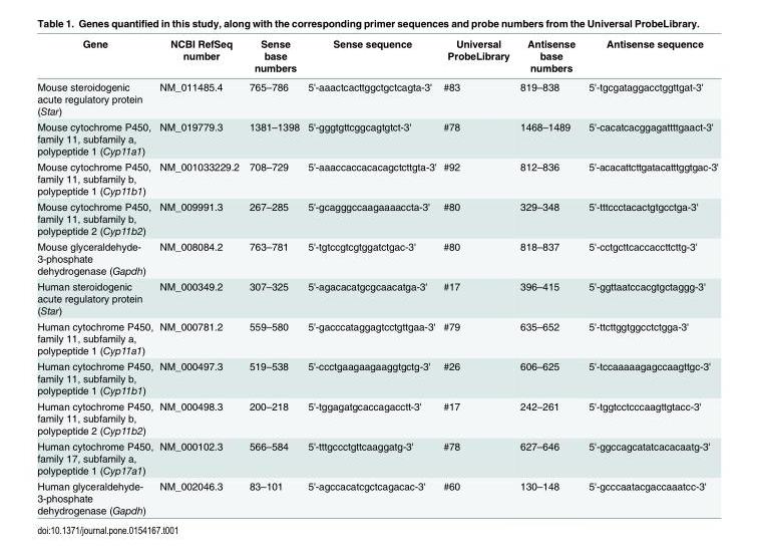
<table><thead><tr><td>Gene</td><td>NCBI RefSeq number</td><td>Sense base numbers</td><td>Sense sequence</td><td>Universal ProbeLibrary</td><td>Antisense base numbers</td><td>Antisense sequence</td></tr></thead><tbody><tr><td>Mouse steroidogenic acute regulatory protein (Star)</td><td>NM_011485.4</td><td>765–786</td><td>5&#x27;-aaactcacttggctgctcagta-3&#x27;</td><td>#83</td><td>819–838</td><td>5&#x27;-tgcgataggacctggttgat-3&#x27;</td></tr><tr><td>Mouse cytochrome P450, family 11, subfamily a, polypeptide 1 (Cyp11a1)</td><td>NM_019779.3</td><td>1381–1398</td><td>5&#x27;-gggtgttcggcagtgtct-3&#x27;</td><td>#78</td><td>1468–1489</td><td>5&#x27;-cacatcacggagattttgaact-3&#x27;</td></tr><tr><td>Mouse cytochrome P450, family 11, subfamily b, polypeptide 1 (Cyp11b1)</td><td>NM_001033229.2</td><td>708–729</td><td>5&#x27;-aaaccaccacacagctcttgta-3&#x27;</td><td>#92</td><td>812–836</td><td>5&#x27;-acacattcttgatacatttggtgac-3&#x27;</td></tr><tr><td>Mouse cytochrome P450, family 11, subfamily b, polypeptide 2 (Cyp11b2)</td><td>NM_009991.3</td><td>267–285</td><td>5&#x27;-gcagggccaagaaaaccta-3&#x27;</td><td>#80</td><td>329–348</td><td>5&#x27;-tttccctacactgtgcctga-3&#x27;</td></tr><tr><td>Mouse glyceraldehyde- 3-phosphate dehydrogenase (Gapdh)</td><td>NM_008084.2</td><td>763–781</td><td>5&#x27;-tgtccgtcgtggatctgac-3&#x27;</td><td>#80</td><td>818–837</td><td>5&#x27;-cctgcttcaccaccttcttg-3&#x27;</td></tr><tr><td>Human steroidogenic acute regulatory protein (Star)</td><td>NM_000349.2</td><td>307–325</td><td>5&#x27;-agacacatgcgcaacatga-3&#x27;</td><td>#17</td><td>396–415</td><td>5&#x27;-ggttaatccacgtgctaggg-3&#x27;</td></tr><tr><td>Human cytochrome P450, family 11, subfamily a, polypeptide 1 (Cyp11a1)</td><td>NM_000781.2</td><td>559–580</td><td>5&#x27;-gacccataggagtcctgttgaa-3&#x27;</td><td>#79</td><td>635–652</td><td>5&#x27;-ttcttggtggcctctgga-3&#x27;</td></tr><tr><td>Human cytochrome P450, family 11, subfamily b, polypeptide 1 (Cyp11b1)</td><td>NM_000497.3</td><td>519–538</td><td>5&#x27;-ccctgaagaagaaggtgctg-3&#x27;</td><td>#26</td><td>606–625</td><td>5&#x27;-tccaaaaagagccaagttgc-3&#x27;</td></tr><tr><td>Human cytochrome P450, family 11, subfamily b, polypeptide 2 (Cyp11b2)</td><td>NM_000498.3</td><td>200–218</td><td>5&#x27;-tggagatgcaccagacctt-3&#x27;</td><td>#17</td><td>242–261</td><td>5&#x27;-tggtcctcccaagttgtacc-3&#x27;</td></tr><tr><td>Human cytochrome P450, family 17, subfamily a, polypeptide 1 (Cyp17a1)</td><td>NM_000102.3</td><td>566–584</td><td>5&#x27;-tttgccctgttcaaggatg-3&#x27;</td><td>#78</td><td>627–646</td><td>5&#x27;-ggccagcatatcacacaatg-3&#x27;</td></tr><tr><td>Human glyceraldehyde- 3-phosphate dehydrogenase (Gapdh)</td><td>NM_002046.3</td><td>83–101</td><td>5&#x27;-agccacatcgctcagacac-3&#x27;</td><td>#60</td><td>130–148</td><td>5&#x27;-gcccaatacgaccaaatcc-3&#x27;</td></tr></tbody></table>